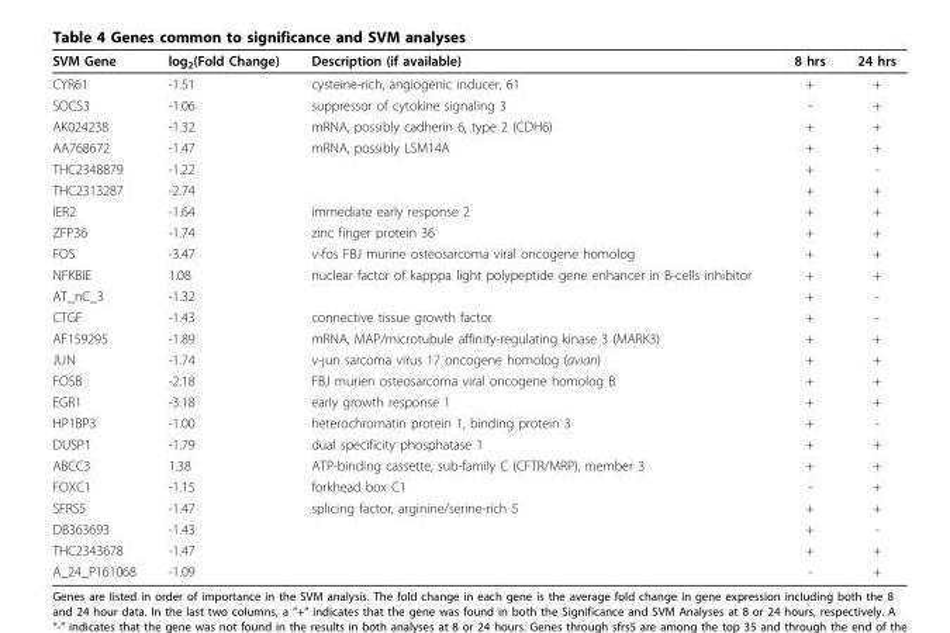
<table><thead><tr><td>SVM Gene</td><td>log<sub>2</sub>(Fold Change)</td><td>Description (if available)</td><td>8 hrs</td><td>24 hrs</td></tr></thead><tbody><tr><td>CYR61</td><td>-1.51</td><td>cysteine-rich, angiogenic inducer, 61</td><td>+</td><td>+</td></tr><tr><td>SOCS3</td><td>-1.06</td><td>suppressor of cytokine signaling 3</td><td>-</td><td>+</td></tr><tr><td>AK024238</td><td>-1.32</td><td>mRNA, possibly cadherin 6, type 2 (CDH6)</td><td>+</td><td>+</td></tr><tr><td>AA768672</td><td>-1.47</td><td>mRNA, possibly LSM14A</td><td>+</td><td>+</td></tr><tr><td>THC2348879</td><td>-1.22</td><td></td><td>+</td><td>-</td></tr><tr><td>THC2313287</td><td>-2.74</td><td></td><td>+</td><td>+</td></tr><tr><td>IER2</td><td>-1.64</td><td>immediate early response 2</td><td>+</td><td>+</td></tr><tr><td>ZFP36</td><td>-1.74</td><td>zinc finger protein 36</td><td>+</td><td>+</td></tr><tr><td>FOS</td><td>-3.47</td><td>v-fos FBJ murine osteosarcoma viral oncogene homolog</td><td>+</td><td>+</td></tr><tr><td>NFKBIE</td><td>1.08</td><td>nuclear factor of kapppa light polypeptide gene enhancer in B-cells inhibitor</td><td>+</td><td>+</td></tr><tr><td>AT_nC_3</td><td>-1.32</td><td></td><td>+</td><td>-</td></tr><tr><td>CTGF</td><td>-1.43</td><td>connective tissue growth factor</td><td>+</td><td>-</td></tr><tr><td>AF159295</td><td>-1.89</td><td>mRNA, MAP/microtubule affinity-regulating kinase 3 (MARK3)</td><td>+</td><td>+</td></tr><tr><td>JUN</td><td>-1.74</td><td>v-jun sarcoma virus 17 oncogene homolog (avian)</td><td>+</td><td>+</td></tr><tr><td>FOSB</td><td>-2.18</td><td>FBJ murien osteosarcoma viral oncogene homolog B</td><td>+</td><td>+</td></tr><tr><td>EGR1</td><td>-3.18</td><td>early growth response 1</td><td>+</td><td>+</td></tr><tr><td>HP1BP3</td><td>-1.00</td><td>heterochromatin protein 1, binding protein 3</td><td>+</td><td>-</td></tr><tr><td>DUSP1</td><td>-1.79</td><td>dual specificity phosphatase 1</td><td>+</td><td>+</td></tr><tr><td>ABCC3</td><td>1.38</td><td>ATP-binding cassette, sub-family C (CFTR/MRP), member 3</td><td>+</td><td>+</td></tr><tr><td>FOXC1</td><td>-1.15</td><td>forkhead box C1</td><td>-</td><td>+</td></tr><tr><td>SFRS5</td><td>-1.47</td><td>splicing factor, arginine/serine-rich 5</td><td>+</td><td>+</td></tr><tr><td>DB363693</td><td>-1.43</td><td></td><td>+</td><td>-</td></tr><tr><td>THC2343678</td><td>-1.47</td><td></td><td>+</td><td>+</td></tr><tr><td>A_24_P161068</td><td>-1.09</td><td></td><td>-</td><td>+</td></tr></tbody></table>